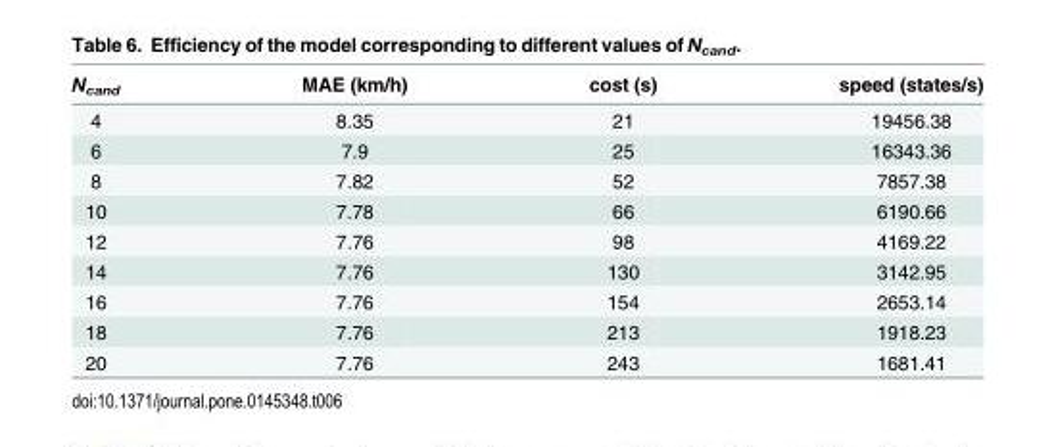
<table><thead><tr><td>N<sub>cand</sub></td><td>MAE (km/h)</td><td>cost (s)</td><td>speed (states/s)</td></tr></thead><tbody><tr><td>4</td><td>8.35</td><td>21</td><td>19456.38</td></tr><tr><td>6</td><td>7.9</td><td>25</td><td>16343.36</td></tr><tr><td>8</td><td>7.82</td><td>52</td><td>7857.38</td></tr><tr><td>10</td><td>7.78</td><td>66</td><td>6190.66</td></tr><tr><td>12</td><td>7.76</td><td>98</td><td>4169.22</td></tr><tr><td>14</td><td>7.76</td><td>130</td><td>3142.95</td></tr><tr><td>16</td><td>7.76</td><td>154</td><td>2653.14</td></tr><tr><td>18</td><td>7.76</td><td>213</td><td>1918.23</td></tr><tr><td>20</td><td>7.76</td><td>243</td><td>1681.41</td></tr></tbody></table>